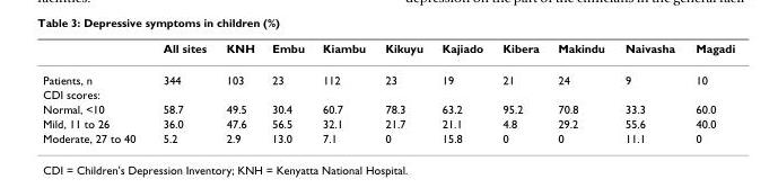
<table><thead><tr><td></td><td>All sites</td><td>KNH</td><td>Embu</td><td>Kiambu</td><td>Kikuyu</td><td>Kajiado</td><td>Kibera</td><td>Makindu</td><td>Naivasha</td><td>Magadi</td></tr></thead><tbody><tr><td>Patients, n</td><td>344</td><td>103</td><td>23</td><td>112</td><td>23</td><td>19</td><td>21</td><td>24</td><td>9</td><td>10</td></tr><tr><td colspan="11">CDI scores:</td></tr><tr><td>Normal, &lt;10</td><td>58.7</td><td>49.5</td><td>30.4</td><td>60.7</td><td>78.3</td><td>63.2</td><td>95.2</td><td>70.8</td><td>33.3</td><td>60.0</td></tr><tr><td>Mild, 11 to 26</td><td>36.0</td><td>47.6</td><td>56.5</td><td>32.1</td><td>21.7</td><td>21.1</td><td>4.8</td><td>29.2</td><td>55.6</td><td>40.0</td></tr><tr><td>Moderate, 27 to 40</td><td>5.2</td><td>2.9</td><td>13.0</td><td>7.1</td><td>0</td><td>15.8</td><td>0</td><td>0</td><td>11.1</td><td>0</td></tr></tbody></table>